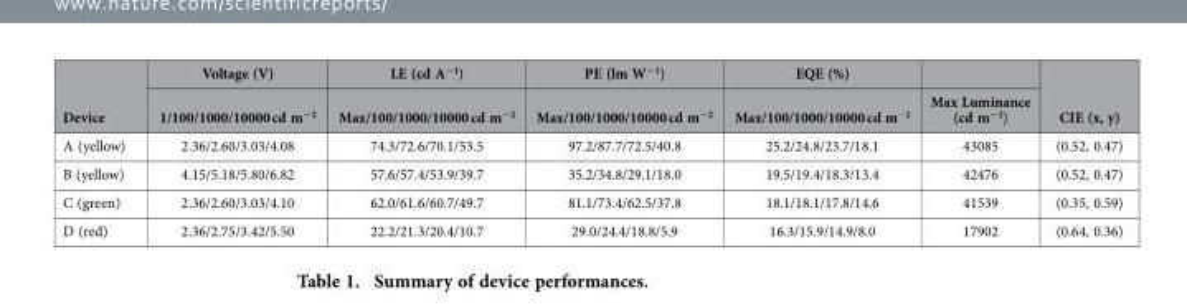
<table><thead><tr><td rowspan="2">Device</td><td rowspan="2">Voltage (V) 1/100/1000/10000 cd m<sup>−2</sup></td><td rowspan="2">LE (cd A<sup>−1</sup>) Max/100/1000/10000 cd m<sup>−2</sup></td><td rowspan="2">PE (lm W<sup>−1</sup>) Max/100/1000/10000 cd m<sup>−2</sup></td><td rowspan="2">EQE (%) Max/100/1000/10000 cd m<sup>−2</sup></td><td rowspan="2">Max Luminance (cd m<sup>−2</sup>)</td><td rowspan="2">CIE (x, y)</td></tr><tr></tr></thead><tbody><tr><td>A (yellow)</td><td>2.36/2.60/3.03/4.08</td><td>74.3/72.6/70.1/53.5</td><td>97.2/87.7/72.5/40.8</td><td>25.2/24.8/23.7/18.1</td><td>43085</td><td>(0.52, 0.47)</td></tr><tr><td>B (yellow)</td><td>4.15/5.18/5.80/6.82</td><td>57.6/57.4/53.9/39.7</td><td>35.2/34.8/29.1/18.0</td><td>19.5/19.4/18.3/13.4</td><td>42476</td><td>(0.52, 0.47)</td></tr><tr><td>C (green)</td><td>2.36/2.60/3.03/4.10</td><td>62.0/61.6/60.7/49.7</td><td>81.1/73.4/62.5/37.8</td><td>18.1/18.1/17.8/14.6</td><td>41539</td><td>(0.35, 0.59)</td></tr><tr><td>D (red)</td><td>2.36/2.75/3.42/5.50</td><td>22.2/21.3/20.4/10.7</td><td>29.0/24.4/18.8/5.9</td><td>16.3/15.9/14.9/8.0</td><td>17902</td><td>(0.64, 0.36)</td></tr></tbody></table>